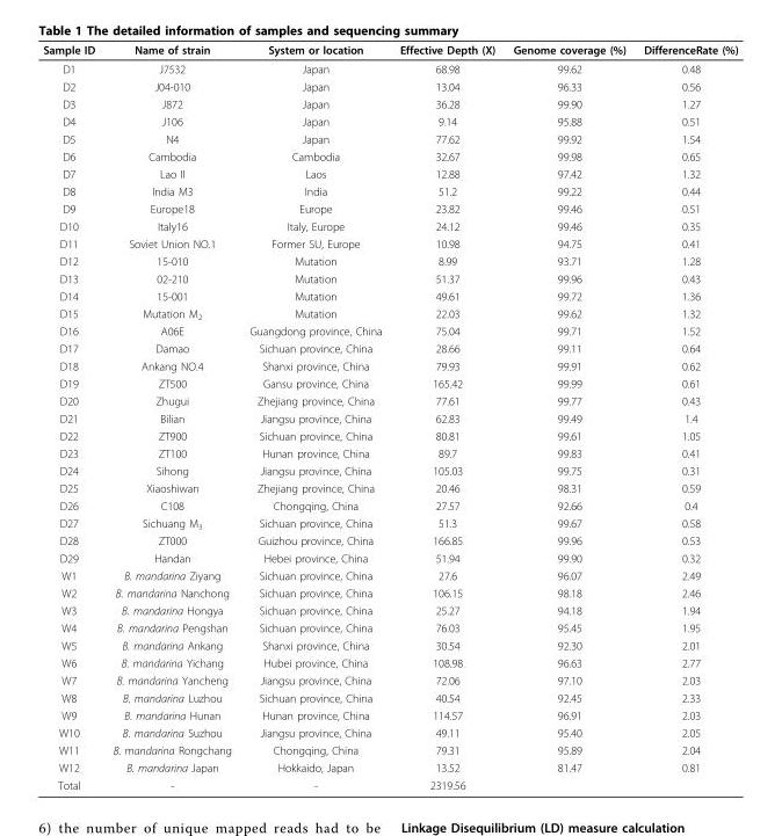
<table><thead><tr><td>Sample ID</td><td>Name of strain</td><td>System or location</td><td>Effective Depth (X)</td><td>Genome coverage (%)</td><td>DifferenceRate (%)</td></tr></thead><tbody><tr><td>D1</td><td>J7532</td><td>Japan</td><td>68.98</td><td>99.62</td><td>0.48</td></tr><tr><td>D2</td><td>J04-010</td><td>Japan</td><td>13.04</td><td>96.33</td><td>0.56</td></tr><tr><td>D3</td><td>J872</td><td>Japan</td><td>36.28</td><td>99.90</td><td>1.27</td></tr><tr><td>D4</td><td>J106</td><td>Japan</td><td>9.14</td><td>95.88</td><td>0.51</td></tr><tr><td>D5</td><td>N4</td><td>Japan</td><td>77.62</td><td>99.92</td><td>1.54</td></tr><tr><td>D6</td><td>Cambodia</td><td>Cambodia</td><td>32.67</td><td>99.98</td><td>0.65</td></tr><tr><td>D7</td><td>Lao II</td><td>Laos</td><td>12.88</td><td>97.42</td><td>1.32</td></tr><tr><td>D8</td><td>India M3</td><td>India</td><td>51.2</td><td>99.22</td><td>0.44</td></tr><tr><td>D9</td><td>Europe18</td><td>Europe</td><td>23.82</td><td>99.46</td><td>0.51</td></tr><tr><td>D10</td><td>Italy16</td><td>Italy, Europe</td><td>24.12</td><td>99.46</td><td>0.35</td></tr><tr><td>D11</td><td>Soviet Union NO.1</td><td>Former SU, Europe</td><td>10.98</td><td>94.75</td><td>0.41</td></tr><tr><td>D12</td><td>15-010</td><td>Mutation</td><td>8.99</td><td>93.71</td><td>1.28</td></tr><tr><td>D13</td><td>02-210</td><td>Mutation</td><td>51.37</td><td>99.96</td><td>0.43</td></tr><tr><td>D14</td><td>15-001</td><td>Mutation</td><td>49.61</td><td>99.72</td><td>1.36</td></tr><tr><td>D15</td><td>Mutation M<sub>2</sub></td><td>Mutation</td><td>22.03</td><td>99.62</td><td>1.32</td></tr><tr><td>D16</td><td>A06E</td><td>Guangdong province, China</td><td>75.04</td><td>99.71</td><td>1.52</td></tr><tr><td>D17</td><td>Damao</td><td>Sichuan province, China</td><td>28.66</td><td>99.11</td><td>0.64</td></tr><tr><td>D18</td><td>Ankang NO.4</td><td>Shanxi province, China</td><td>79.93</td><td>99.91</td><td>0.62</td></tr><tr><td>D19</td><td>ZT500</td><td>Gansu province, China</td><td>165.42</td><td>99.99</td><td>0.61</td></tr><tr><td>D20</td><td>Zhugui</td><td>Zhejiang province, China</td><td>77.61</td><td>99.77</td><td>0.43</td></tr><tr><td>D21</td><td>Bilian</td><td>Jiangsu province, China</td><td>62.83</td><td>99.49</td><td>1.4</td></tr><tr><td>D22</td><td>ZT900</td><td>Sichuan province, China</td><td>80.81</td><td>99.61</td><td>1.05</td></tr><tr><td>D23</td><td>ZT100</td><td>Hunan province, China</td><td>89.7</td><td>99.83</td><td>0.41</td></tr><tr><td>D24</td><td>Sihong</td><td>Jiangsu province, China</td><td>105.03</td><td>99.75</td><td>0.31</td></tr><tr><td>D25</td><td>Xiaoshiwan</td><td>Zhejiang province, China</td><td>20.46</td><td>98.31</td><td>0.59</td></tr><tr><td>D26</td><td>C108</td><td>Chongqing, China</td><td>27.57</td><td>92.66</td><td>0.4</td></tr><tr><td>D27</td><td>Sichuang M<sub>3</sub></td><td>Sichuan province, China</td><td>51.3</td><td>99.67</td><td>0.58</td></tr><tr><td>D28</td><td>ZT000</td><td>Guizhou province, China</td><td>166.85</td><td>99.96</td><td>0.53</td></tr><tr><td>D29</td><td>Handan</td><td>Hebei province, China</td><td>51.94</td><td>99.90</td><td>0.32</td></tr><tr><td>W1</td><td>B. mandarina Ziyang</td><td>Sichuan province, China</td><td>27.6</td><td>96.07</td><td>2.49</td></tr><tr><td>W2</td><td>B. mandarina Nanchong</td><td>Sichuan province, China</td><td>106.15</td><td>98.18</td><td>2.46</td></tr><tr><td>W3</td><td>B. mandarina Hongya</td><td>Sichuan province, China</td><td>25.27</td><td>94.18</td><td>1.94</td></tr><tr><td>W4</td><td>B. mandarina Pengshan</td><td>Sichuan province, China</td><td>76.03</td><td>95.45</td><td>1.95</td></tr><tr><td>W5</td><td>B. mandarina Ankang</td><td>Shanxi province, China</td><td>30.54</td><td>92.30</td><td>2.01</td></tr><tr><td>W6</td><td>B. mandarina Yichang</td><td>Hubei province, China</td><td>108.98</td><td>96.63</td><td>2.77</td></tr><tr><td>W7</td><td>B. mandarina Yancheng</td><td>Jiangsu province, China</td><td>72.06</td><td>97.10</td><td>2.03</td></tr><tr><td>W8</td><td>B. mandarina Luzhou</td><td>Sichuan province, China</td><td>40.54</td><td>92.45</td><td>2.33</td></tr><tr><td>W9</td><td>B. mandarina Hunan</td><td>Hunan province, China</td><td>114.57</td><td>96.91</td><td>2.03</td></tr><tr><td>W10</td><td>B. mandarina Suzhou</td><td>Jiangsu province, China</td><td>49.11</td><td>95.40</td><td>2.05</td></tr><tr><td>W11</td><td>B. mandarina Rongchang</td><td>Chongqing, China</td><td>79.31</td><td>95.89</td><td>2.04</td></tr><tr><td>W12</td><td>B. mandarina Japan</td><td>Hokkaido, Japan</td><td>13.52</td><td>81.47</td><td>0.81</td></tr><tr><td>Total</td><td>-</td><td>-</td><td>2319.56</td><td></td><td></td></tr></tbody></table>